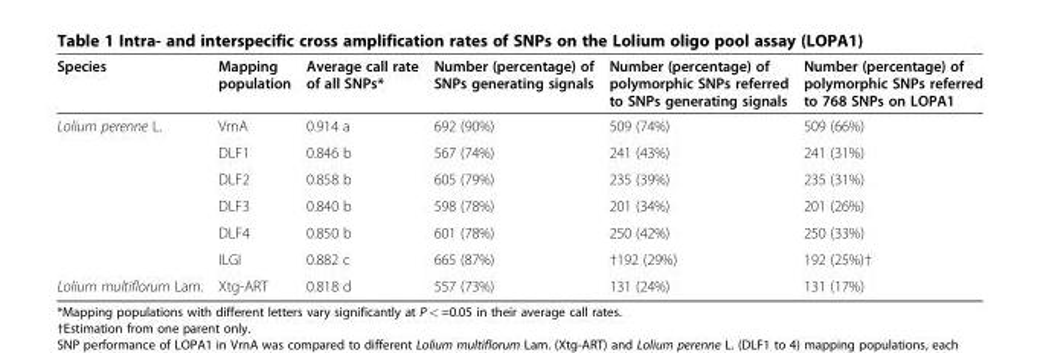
<table><thead><tr><td>Species</td><td>Mapping population</td><td>Average call rate of all SNPs*</td><td>Number (percentage) of SNPs generating signals</td><td>Number (percentage) of polymorphic SNPs referred to SNPs generating signals</td><td>Number (percentage) of polymorphic SNPs referred to 768 SNPs on LOPA1</td></tr></thead><tbody><tr><td rowspan="6">Lolium perenne L.</td><td>VrnA</td><td>0.914 a</td><td>692 (90%)</td><td>509 (74%)</td><td>509 (66%)</td></tr><tr><td>DLF1</td><td>0.846 b</td><td>567 (74%)</td><td>241 (43%)</td><td>241 (31%)</td></tr><tr><td>DLF2</td><td>0.858 b</td><td>605 (79%)</td><td>235 (39%)</td><td>235 (31%)</td></tr><tr><td>DLF3</td><td>0.840 b</td><td>598 (78%)</td><td>201 (34%)</td><td>201 (26%)</td></tr><tr><td>DLF4</td><td>0.850 b</td><td>601 (78%)</td><td>250 (42%)</td><td>250 (33%)</td></tr><tr><td>ILGI</td><td>0.882 c</td><td>665 (87%)</td><td>†192 (29%)</td><td>192 (25%)†</td></tr><tr><td>Lolium multiflorum Lam.</td><td>Xtg-ART</td><td>0.818 d</td><td>557 (73%)</td><td>131 (24%)</td><td>131 (17%)</td></tr></tbody></table>